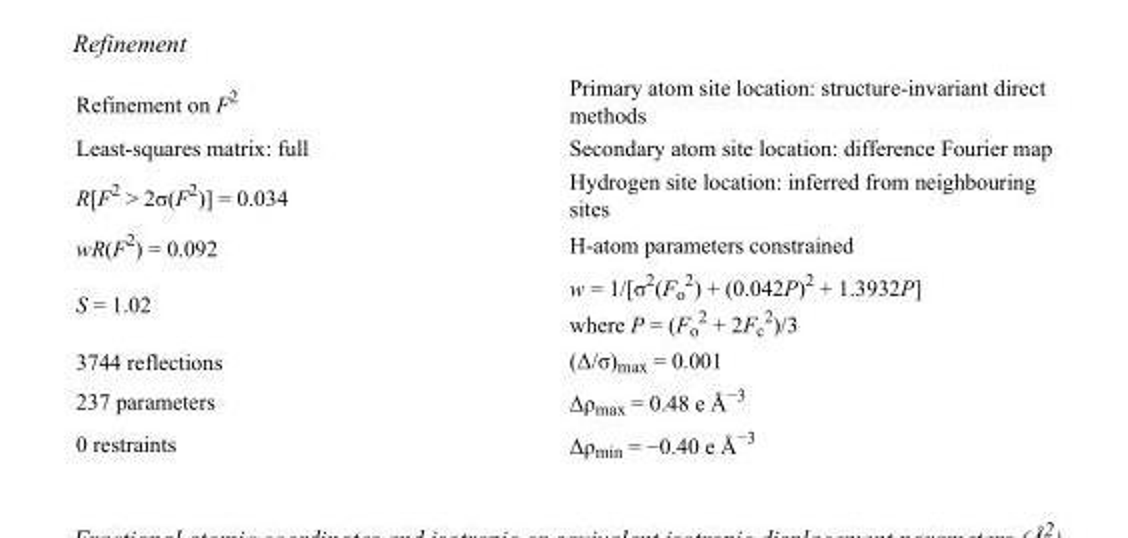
<table><tbody><tr><td>Refinement on F<sup>2</sup></td><td>Primary atom site location: structure-invariant direct methods</td></tr><tr><td>Least-squares matrix: full</td><td>Secondary atom site location: difference Fourier map</td></tr><tr><td>R[F<sup>2</sup> &gt; 2σ(F<sup>2</sup>)] = 0.034</td><td>Hydrogen site location: inferred from neighbouring sites</td></tr><tr><td>wR(F<sup>2</sup>) = 0.092</td><td>H-atom parameters constrained</td></tr><tr><td>S = 1.02</td><td>w = 1/[σ<sup>2</sup>(F<sub>o</sub> <sup>2</sup>) + (0.042P)<sup>2</sup> + 1.3932P] where P = (F<sub>o</sub> <sup>2</sup> + 2F<sub>c</sub> <sup>2</sup>)/3</td></tr><tr><td>3744 reflections</td><td>(Δ/σ)<sub>max</sub> = 0.001</td></tr><tr><td>237 parameters</td><td>Δρ<sub>max</sub> = 0.48 e Å<sup>−3</sup></td></tr><tr><td>0 restraints</td><td>Δρ<sub>min</sub> = −0.40 e Å<sup>−3</sup></td></tr></tbody></table>